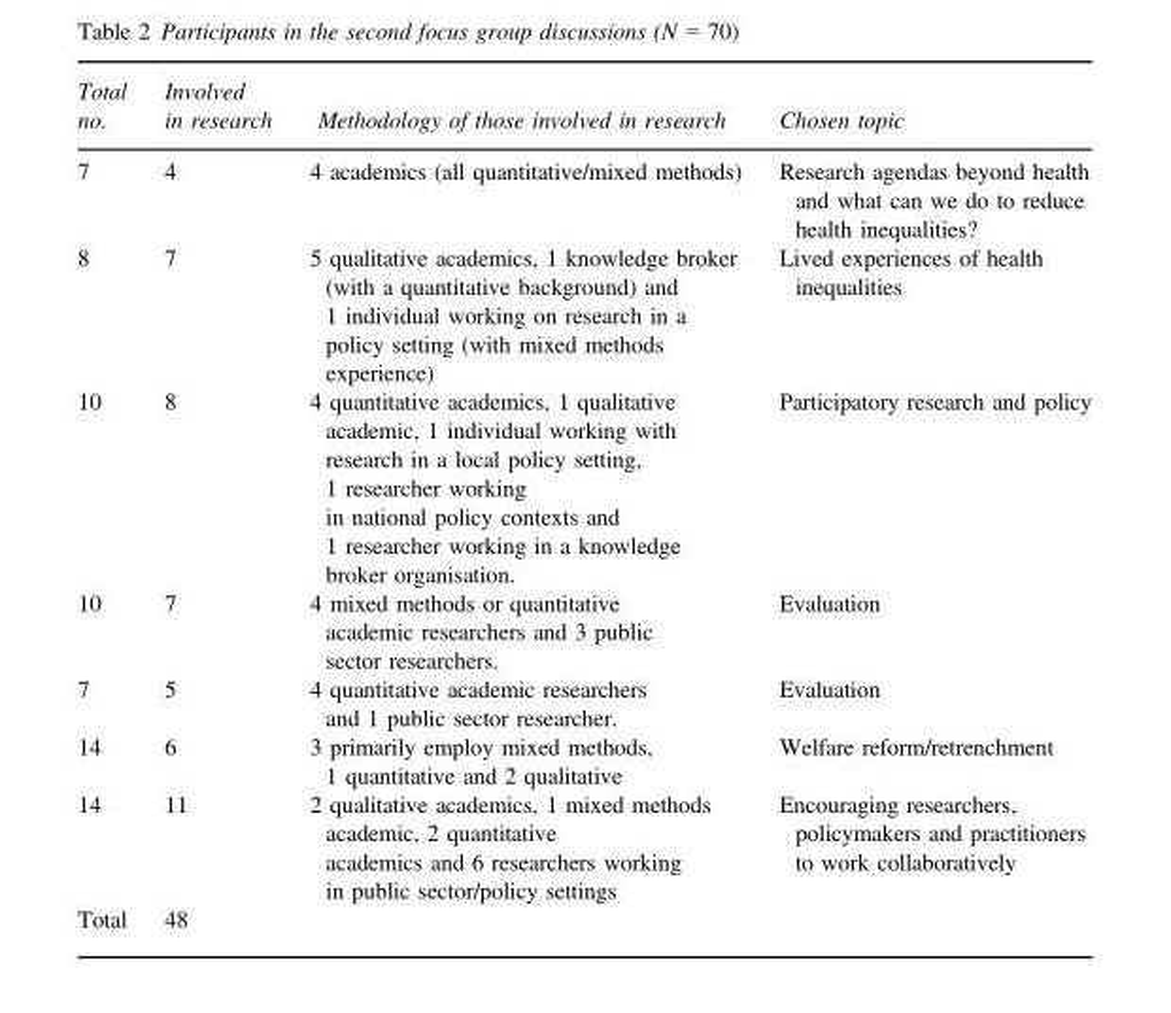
<table><thead><tr><td>Total no.</td><td>Involved in research</td><td>Methodology of those involved in research</td><td>Chosen topic</td></tr></thead><tbody><tr><td>7</td><td>4</td><td>4 academics (all quantitative/mixed methods)</td><td>Research agendas beyond health and what can we do to reduce health inequalities?</td></tr><tr><td>8</td><td>7</td><td>5 qualitative academics, 1 knowledge broker (with a quantitative background) and 1 individual working on research in a policy setting (with mixed methods experience)</td><td>Lived experiences of health inequalities</td></tr><tr><td>10</td><td>8</td><td>4 quantitative academics, 1 qualitative academic, 1 individual working with research in a local policy setting, 1 researcher working in national policy contexts and 1 researcher working in a knowledge broker organisation.</td><td>Participatory research and policy</td></tr><tr><td>10</td><td>7</td><td>4 mixed methods or quantitative academic researchers and 3 public sector researchers.</td><td>Evaluation</td></tr><tr><td>7</td><td>5</td><td>4 quantitative academic researchers and 1 public sector researcher.</td><td>Evaluation</td></tr><tr><td>14</td><td>6</td><td>3 primarily employ mixed methods, 1 quantitative and 2 qualitative</td><td>Welfare reform/retrenchment</td></tr><tr><td>14</td><td>11</td><td>2 qualitative academics, 1 mixed methods academic, 2 quantitative academics and 6 researchers working in public sector/policy settings</td><td>Encouraging researchers, policymakers and practitioners to work collaboratively</td></tr><tr><td>Total</td><td>48</td><td></td><td></td></tr></tbody></table>